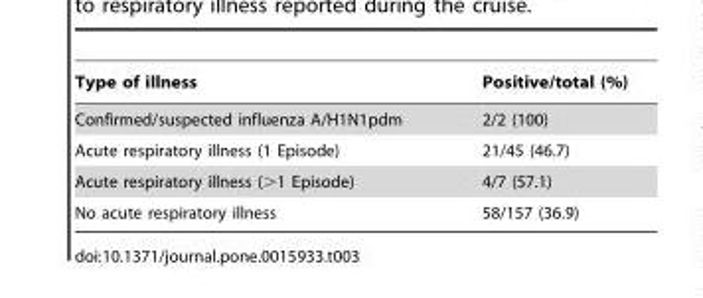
<table><thead><tr><td>Type of illness</td><td>Positive/total (%)</td></tr></thead><tbody><tr><td>Confirmed/suspected influenza A/H1N1pdm</td><td>2/2 (100)</td></tr><tr><td>Acute respiratory illness (1 Episode)</td><td>21/45 (46.7)</td></tr><tr><td>Acute respiratory illness (&gt;1 Episode)</td><td>4/7 (57.1)</td></tr><tr><td>No acute respiratory illness</td><td>58/157 (36.9)</td></tr></tbody></table>